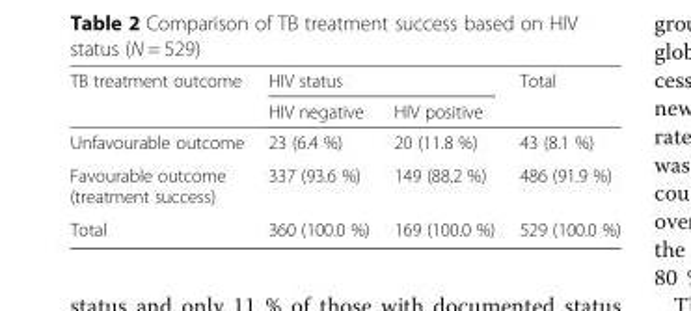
<table><thead><tr><td rowspan="2">TB treatment outcome</td><td colspan="2">HIV status</td><td rowspan="2">Total</td></tr><tr><td>HIV negative</td><td>HIV positive</td></tr></thead><tbody><tr><td>Unfavourable outcome</td><td>23 (6.4 %)</td><td>20 (11.8 %)</td><td>43 (8.1 %)</td></tr><tr><td>Favourable outcome (treatment success)</td><td>337 (93.6 %)</td><td>149 (88.2 %)</td><td>486 (91.9 %)</td></tr><tr><td>Total</td><td>360 (100.0 %)</td><td>169 (100.0 %)</td><td>529 (100.0 %)</td></tr></tbody></table>